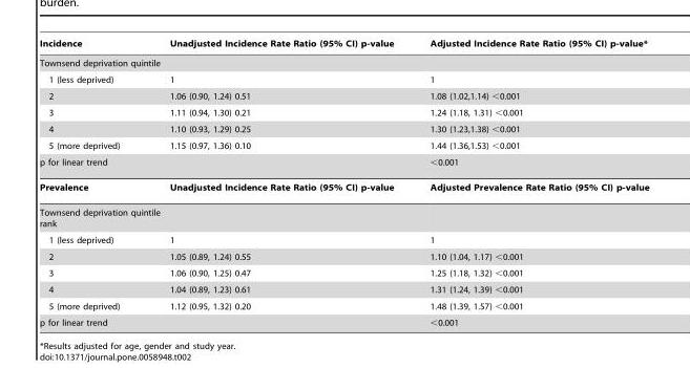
<table><thead><tr><td>Incidence</td><td>Unadjusted Incidence Rate Ratio (95% CI) p-value</td><td>Adjusted Incidence Rate Ratio (95% CI) p-value*</td></tr></thead><tbody><tr><td colspan="3">Townsend deprivation quintile</td></tr><tr><td>1 (less deprived)</td><td>1</td><td>1</td></tr><tr><td>2</td><td>1.06 (0.90, 1.24) 0.51</td><td>1.08 (1.02,1.14) &lt;0.001</td></tr><tr><td>3</td><td>1.11 (0.94, 1.30) 0.21</td><td>1.24 (1.18, 1.31) &lt;0.001</td></tr><tr><td>4</td><td>1.10 (0.93, 1.29) 0.25</td><td>1.30 (1.23,1.38) &lt;0.001</td></tr><tr><td>5 (more deprived)</td><td>1.15 (0.97, 1.36) 0.10</td><td>1.44 (1.36,1.53) &lt;0.001</td></tr><tr><td>p for linear trend</td><td></td><td>&lt;0.001</td></tr><tr><td>Prevalence</td><td>Unadjusted Incidence Rate Ratio (95% CI) p-value</td><td>Adjusted Prevalence Rate Ratio (95% CI) p-value</td></tr><tr><td colspan="3">Townsend deprivation quintile rank</td></tr><tr><td>1 (less deprived)</td><td>1</td><td>1</td></tr><tr><td>2</td><td>1.05 (0.89, 1.24) 0.55</td><td>1.10 (1.04, 1.17) &lt;0.001</td></tr><tr><td>3</td><td>1.06 (0.90, 1.25) 0.47</td><td>1.25 (1.18, 1.32) &lt;0.001</td></tr><tr><td>4</td><td>1.04 (0.89, 1.23) 0.61</td><td>1.31 (1.24, 1.39) &lt;0.001</td></tr><tr><td>5 (more deprived)</td><td>1.12 (0.95, 1.32) 0.20</td><td>1.48 (1.39, 1.57) &lt;0.001</td></tr><tr><td>p for linear trend</td><td></td><td>&lt;0.001</td></tr></tbody></table>